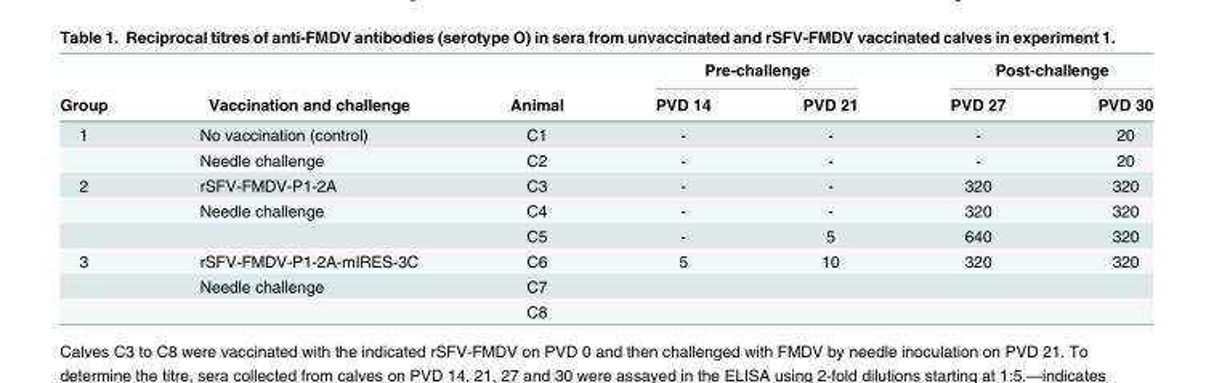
<table><thead><tr><td rowspan="2">Group</td><td rowspan="2">Vaccination and challenge</td><td rowspan="2">Animal</td><td colspan="2">Pre-challenge</td><td colspan="2">Post-challenge</td></tr><tr><td>PVD 14</td><td>PVD 21</td><td>PVD 27</td><td>PVD 30</td></tr></thead><tbody><tr><td rowspan="2">1</td><td>No vaccination (control)</td><td>C1</td><td>-</td><td>-</td><td>-</td><td>20</td></tr><tr><td>Needle challenge</td><td>C2</td><td>-</td><td>-</td><td>-</td><td>20</td></tr><tr><td rowspan="3">2</td><td>rSFV-FMDV-P1-2A</td><td>C3</td><td>-</td><td>-</td><td>320</td><td>320</td></tr><tr><td>Needle challenge</td><td>C4</td><td>-</td><td>-</td><td>320</td><td>320</td></tr><tr><td></td><td>C5</td><td>-</td><td>5</td><td>640</td><td>320</td></tr><tr><td rowspan="3">3</td><td>rSFV-FMDV-P1-2A-mIRES-3C</td><td>C6</td><td>5</td><td>10</td><td>320</td><td>320</td></tr><tr><td>Needle challenge</td><td>C7</td><td></td><td></td><td></td><td></td></tr><tr><td></td><td>C8</td><td></td><td></td><td></td><td></td></tr></tbody></table>